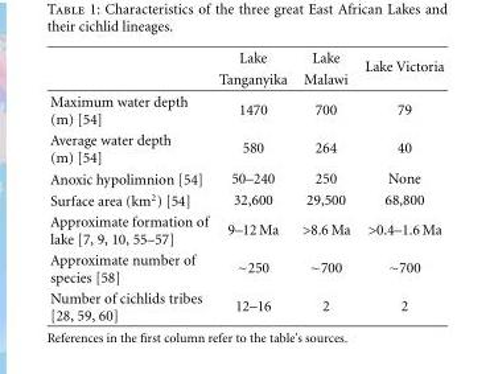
<table><thead><tr><td rowspan="2"></td><td rowspan="2">Lake Tanganyika</td><td rowspan="2">Lake Malawi</td><td rowspan="2">Lake Victoria</td></tr><tr></tr></thead><tbody><tr><td>Maximum water depth (m) [54]</td><td>1470</td><td>700</td><td>79</td></tr><tr><td>Average water depth (m) [54]</td><td>580</td><td>264</td><td>40</td></tr><tr><td>Anoxic hypolimnion [54]</td><td>50–240</td><td>250</td><td>None</td></tr><tr><td>Surface area (km<sup>2</sup>) [54]</td><td>32,600</td><td>29,500</td><td>68,800</td></tr><tr><td>Approximate formation of lake [7, 9, 10, 55–57]</td><td>9–12 Ma</td><td>&gt;8.6 Ma</td><td>&gt;0.4–1.6 Ma</td></tr><tr><td>Approximate number of species [58]</td><td>∼250</td><td>∼700</td><td>∼700</td></tr><tr><td>Number of cichlids tribes [28, 59, 60]</td><td>12–16</td><td>2</td><td>2</td></tr></tbody></table>